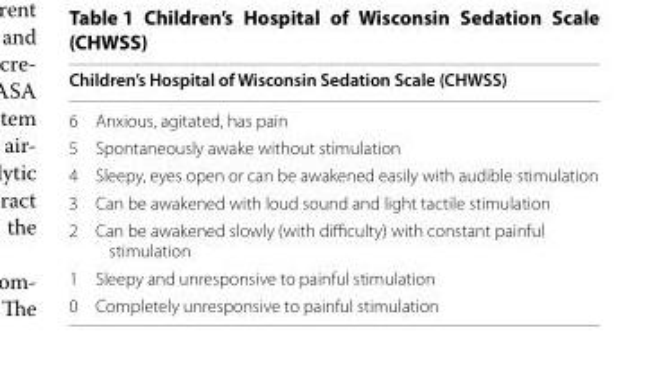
<table><thead><tr><td colspan="2">Children’s Hospital of Wisconsin Sedation Scale (CHWSS)</td></tr><tr><td>6</td><td>Anxious, agitated, has pain</td></tr></thead><tbody><tr><td>5</td><td>Spontaneously awake without stimulation</td></tr><tr><td>4</td><td>Sleepy, eyes open or can be awakened easily with audible stimulation</td></tr><tr><td>3</td><td>Can be awakened with loud sound and light tactile stimulation</td></tr><tr><td>2</td><td>Can be awakened slowly (with difficulty) with constant painful stimulation</td></tr><tr><td>1</td><td>Sleepy and unresponsive to painful stimulation</td></tr><tr><td>0</td><td>Completely unresponsive to painful stimulation</td></tr></tbody></table>